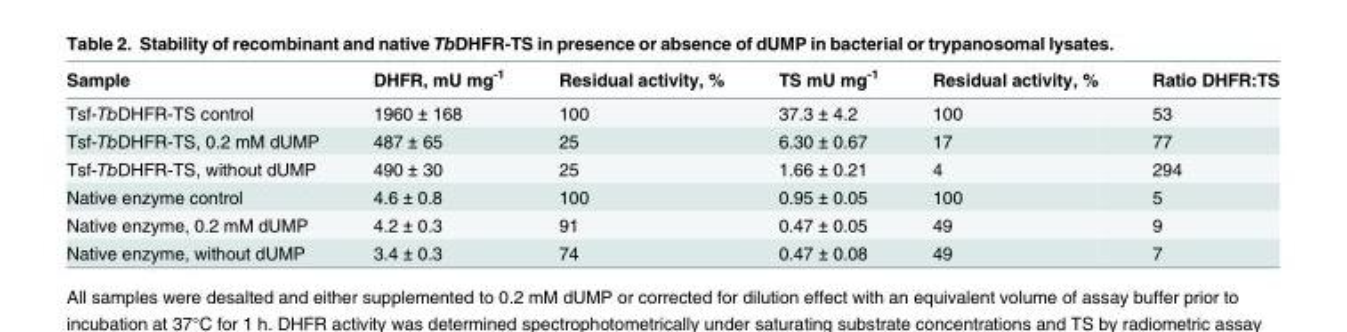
<table><thead><tr><td>Sample</td><td>DHFR, mU mg<sup>-1</sup></td><td>Residual activity, %</td><td>TS mU mg<sup>-1</sup></td><td>Residual activity, %</td><td>Ratio DHFR:TS</td></tr></thead><tbody><tr><td>Tsf-TbDHFR-TS control</td><td>1960 ± 168</td><td>100</td><td>37.3 ± 4.2</td><td>100</td><td>53</td></tr><tr><td>Tsf-TbDHFR-TS, 0.2 mM dUMP</td><td>487 ± 65</td><td>25</td><td>6.30 ± 0.67</td><td>17</td><td>77</td></tr><tr><td>Tsf-TbDHFR-TS, without dUMP</td><td>490 ± 30</td><td>25</td><td>1.66 ± 0.21</td><td>4</td><td>294</td></tr><tr><td>Native enzyme control</td><td>4.6 ± 0.8</td><td>100</td><td>0.95 ± 0.05</td><td>100</td><td>5</td></tr><tr><td>Native enzyme, 0.2 mM dUMP</td><td>4.2 ± 0.3</td><td>91</td><td>0.47 ± 0.05</td><td>49</td><td>9</td></tr><tr><td>Native enzyme, without dUMP</td><td>3.4 ± 0.3</td><td>74</td><td>0.47 ± 0.08</td><td>49</td><td>7</td></tr></tbody></table>